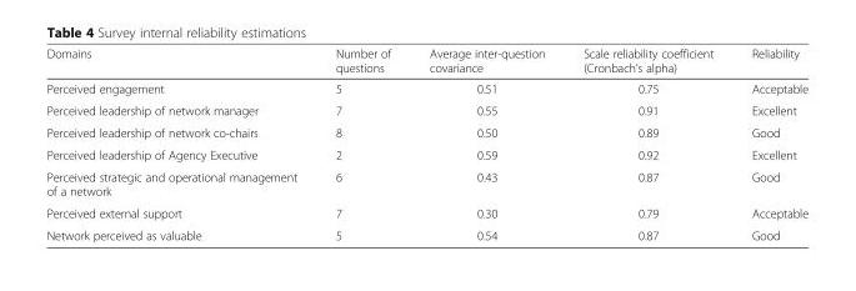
<table><thead><tr><td>Domains</td><td>Number of questions</td><td>Average inter-question covariance</td><td>Scale reliability coefficient (Cronbach’s alpha)</td><td>Reliability</td></tr></thead><tbody><tr><td>Perceived engagement</td><td>5</td><td>0.51</td><td>0.75</td><td>Acceptable</td></tr><tr><td>Perceived leadership of network manager</td><td>7</td><td>0.55</td><td>0.91</td><td>Excellent</td></tr><tr><td>Perceived leadership of network co-chairs</td><td>8</td><td>0.50</td><td>0.89</td><td>Good</td></tr><tr><td>Perceived leadership of Agency Executive</td><td>2</td><td>0.59</td><td>0.92</td><td>Excellent</td></tr><tr><td>Perceived strategic and operational management of a network</td><td>6</td><td>0.43</td><td>0.87</td><td>Good</td></tr><tr><td>Perceived external support</td><td>7</td><td>0.30</td><td>0.79</td><td>Acceptable</td></tr><tr><td>Network perceived as valuable</td><td>5</td><td>0.54</td><td>0.87</td><td>Good</td></tr></tbody></table>